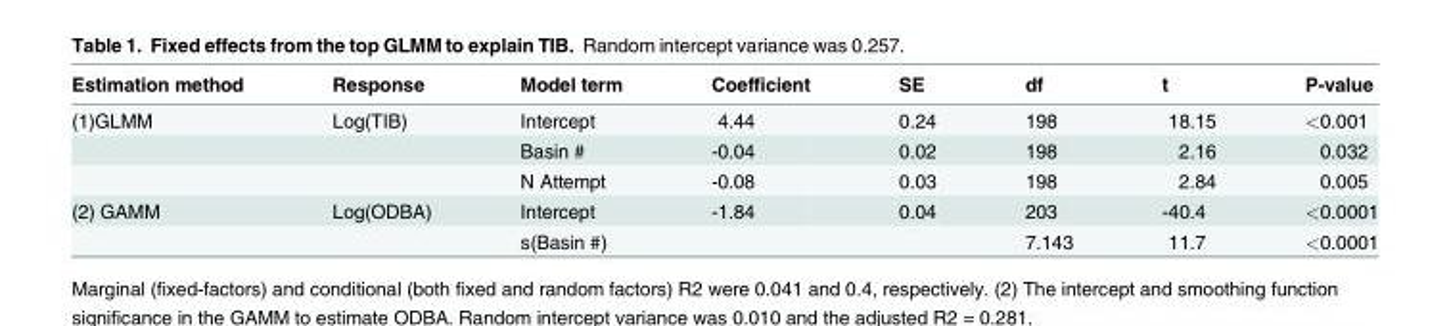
<table><thead><tr><td>Estimation method</td><td>Response</td><td>Model term</td><td>Coefficient</td><td>SE</td><td>df</td><td>t</td><td>P-value</td></tr></thead><tbody><tr><td rowspan="3">(1)GLMM</td><td>Log(TIB)</td><td>Intercept</td><td>4.44</td><td>0.24</td><td>198</td><td>18.15</td><td>&lt;0.001</td></tr><tr><td></td><td>Basin #</td><td>-0.04</td><td>0.02</td><td>198</td><td>2.16</td><td>0.032</td></tr><tr><td></td><td>N Attempt</td><td>-0.08</td><td>0.03</td><td>198</td><td>2.84</td><td>0.005</td></tr><tr><td rowspan="2">(2) GAMM</td><td>Log(ODBA)</td><td>Intercept</td><td>-1.84</td><td>0.04</td><td>203</td><td>-40.4</td><td>&lt;0.0001</td></tr><tr><td></td><td>s(Basin #)</td><td></td><td></td><td>7.143</td><td>11.7</td><td>&lt;0.0001</td></tr></tbody></table>